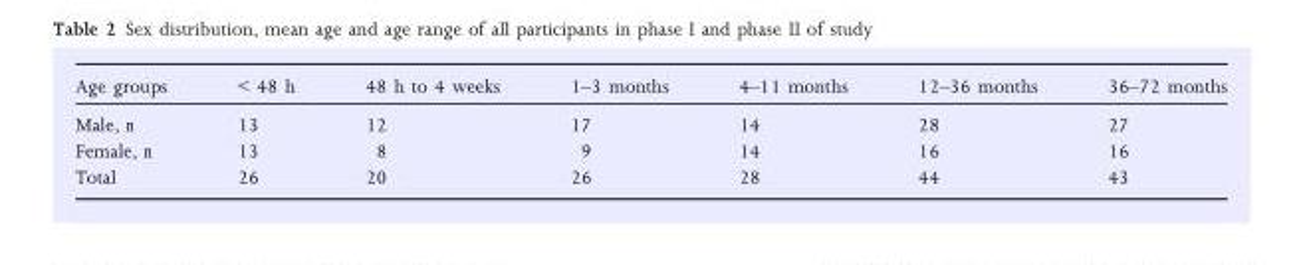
<table><thead><tr><td>Age groups</td><td>&lt; 48 h</td><td>48 h to 4 weeks</td><td>1–3 months</td><td>4–11 months</td><td>12–36 months</td><td>36–72 months</td></tr></thead><tbody><tr><td>Male, n</td><td>13</td><td>12</td><td>17</td><td>14</td><td>28</td><td>27</td></tr><tr><td>Female, n</td><td>13</td><td>8</td><td>9</td><td>14</td><td>16</td><td>16</td></tr><tr><td>Total</td><td>26</td><td>20</td><td>26</td><td>28</td><td>44</td><td>43</td></tr></tbody></table>